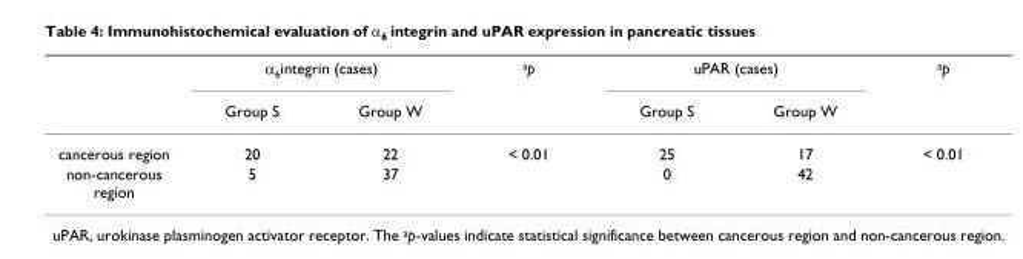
<table><thead><tr><td rowspan="2"></td><td colspan="2">α<sub>6</sub>integrin (cases)</td><td rowspan="2"><sup>a</sup>p</td><td colspan="2">uPAR (cases)</td><td rowspan="2"><sup>a</sup>p</td></tr><tr><td>Group S</td><td>Group W</td><td>Group S</td><td>Group W</td></tr></thead><tbody><tr><td>cancerous region</td><td>20</td><td>22</td><td>&lt; 0.01</td><td>25</td><td>17</td><td>&lt; 0.01</td></tr><tr><td>non-cancerous region</td><td>5</td><td>37</td><td></td><td>0</td><td>42</td><td></td></tr></tbody></table>